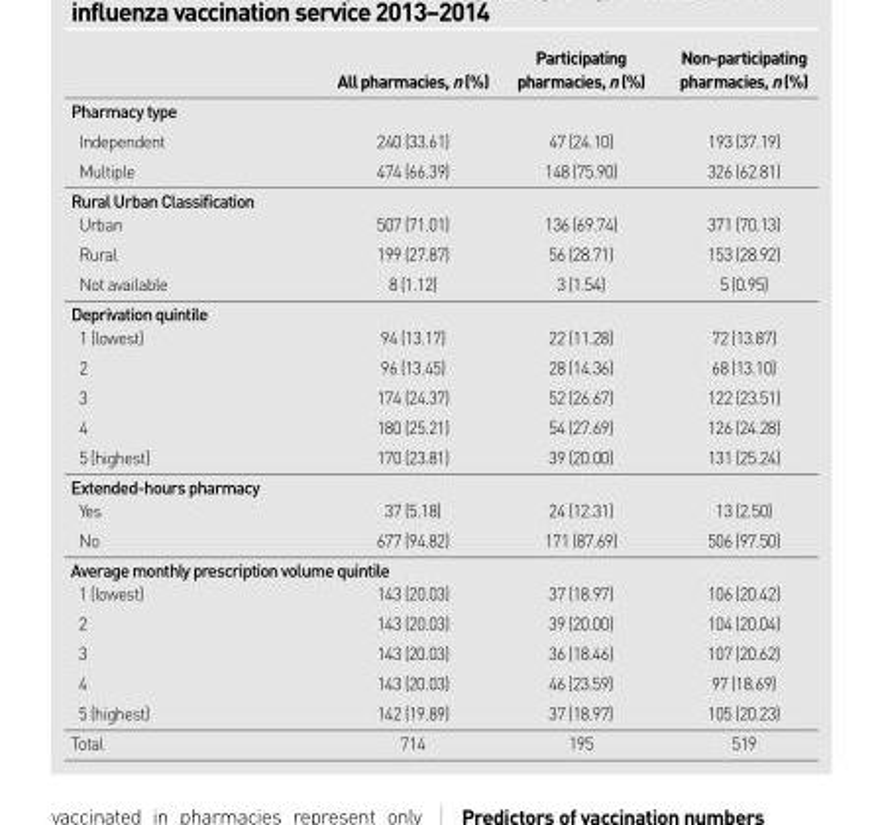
<table><thead><tr><td></td><td>All pharmacies, n (%)</td><td>pharmacies, n (%)</td><td>pharmacies, n (%)</td></tr></thead><tbody><tr><td colspan="4">Pharmacy type</td></tr><tr><td>Independent</td><td>240 (33.61)</td><td>47 (24.10)</td><td>193 (37.19)</td></tr><tr><td>Multiple</td><td>474 (66.39)</td><td>148 (75.90)</td><td>326 (62.81)</td></tr><tr><td colspan="4">Rural Urban Classification</td></tr><tr><td>Urban</td><td>507 (71.01)</td><td>136 (69.74)</td><td>371 (70.13)</td></tr><tr><td>Rural</td><td>199 (27.87)</td><td>56 (28.71)</td><td>153 (28.92)</td></tr><tr><td>Not available</td><td>8 (1.12)</td><td>3 (1.54)</td><td>5 (0.95)</td></tr><tr><td colspan="4">Deprivation quintile</td></tr><tr><td>1 (lowest)</td><td>94 (13.17)</td><td>22 (11.28)</td><td>72 (13.87)</td></tr><tr><td>2</td><td>96 (13.45)</td><td>28 (14.36)</td><td>68 (13.10)</td></tr><tr><td>3</td><td>174 (24.37)</td><td>52 (26.67)</td><td>122 (23.51)</td></tr><tr><td>4</td><td>180 (25.21)</td><td>54 (27.69)</td><td>126 (24.28)</td></tr><tr><td>5 (highest)</td><td>170 (23.81)</td><td>39 (20.00)</td><td>131 (25.24)</td></tr><tr><td colspan="4">Extended-hours pharmacy</td></tr><tr><td>Yes</td><td>37 (5.18)</td><td>24 (12.31)</td><td>13 (2.50)</td></tr><tr><td>No</td><td>677 (94.82)</td><td>171 (87.69)</td><td>506 (97.50)</td></tr><tr><td colspan="4">Average monthly prescription volume quintile</td></tr><tr><td>1 (lowest)</td><td>143 (20.03)</td><td>37 (18.97)</td><td>106 (20.42)</td></tr><tr><td>2</td><td>143 (20.03)</td><td>39 (20.00)</td><td>104 (20.04)</td></tr><tr><td>3</td><td>143 (20.03)</td><td>36 (18.46)</td><td>107 (20.62)</td></tr><tr><td>4</td><td>143 (20.03)</td><td>46 (23.59)</td><td>97 (18.69)</td></tr><tr><td>5 (highest)</td><td>142 (19.89)</td><td>37 (18.97)</td><td>105 (20.23)</td></tr><tr><td>Total</td><td>714</td><td>195</td><td>519</td></tr></tbody></table>